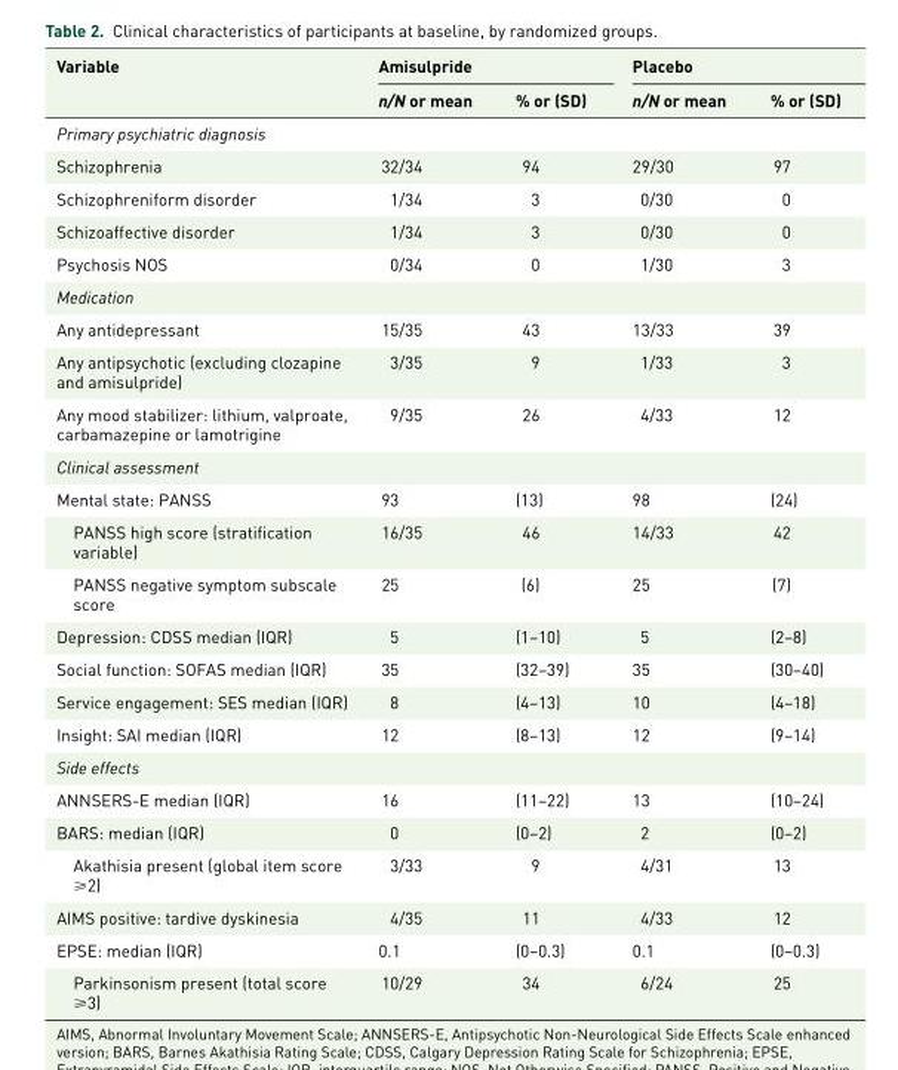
<table><thead><tr><td rowspan="2">Variable</td><td colspan="2">Amisulpride</td><td colspan="2">Placebo</td></tr><tr><td>n/N or mean</td><td>% or (SD)</td><td>n/N or mean</td><td>% or (SD)</td></tr></thead><tbody><tr><td colspan="5">Primary psychiatric diagnosis</td></tr><tr><td>Schizophrenia</td><td>32/34</td><td>94</td><td>29/30</td><td>97</td></tr><tr><td>Schizophreniform disorder</td><td>1/34</td><td>3</td><td>0/30</td><td>0</td></tr><tr><td>Schizoaffective disorder</td><td>1/34</td><td>3</td><td>0/30</td><td>0</td></tr><tr><td>Psychosis NOS</td><td>0/34</td><td>0</td><td>1/30</td><td>3</td></tr><tr><td colspan="5">Medication</td></tr><tr><td>Any antidepressant</td><td>15/35</td><td>43</td><td>13/33</td><td>39</td></tr><tr><td>Any antipsychotic (excluding clozapine and amisulpride)</td><td>3/35</td><td>9</td><td>1/33</td><td>3</td></tr><tr><td>Any mood stabilizer: lithium, valproate, carbamazepine or lamotrigine</td><td>9/35</td><td>26</td><td>4/33</td><td>12</td></tr><tr><td colspan="5">Clinical assessment</td></tr><tr><td>Mental state: PANSS</td><td>93</td><td>(13)</td><td>98</td><td>(24)</td></tr><tr><td>PANSS high score (stratification variable)</td><td>16/35</td><td>46</td><td>14/33</td><td>42</td></tr><tr><td>PANSS negative symptom subscale score</td><td>25</td><td>(6)</td><td>25</td><td>(7)</td></tr><tr><td>Depression: CDSS median (IQR)</td><td>5</td><td>(1–10)</td><td>5</td><td>(2–8)</td></tr><tr><td>Social function: SOFAS median (IQR)</td><td>35</td><td>(32–39)</td><td>35</td><td>(30–40)</td></tr><tr><td>Service engagement: SES median (IQR)</td><td>8</td><td>(4–13)</td><td>10</td><td>(4–18)</td></tr><tr><td>Insight: SAI median (IQR)</td><td>12</td><td>(8–13)</td><td>12</td><td>(9–14)</td></tr><tr><td colspan="5">Side effects</td></tr><tr><td>ANNSERS-E median (IQR)</td><td>16</td><td>(11–22)</td><td>13</td><td>(10–24)</td></tr><tr><td>BARS: median (IQR)</td><td>0</td><td>(0–2)</td><td>2</td><td>(0–2)</td></tr><tr><td>Akathisia present (global item score ⩾2)</td><td>3/33</td><td>9</td><td>4/31</td><td>13</td></tr><tr><td>AIMS positive: tardive dyskinesia</td><td>4/35</td><td>11</td><td>4/33</td><td>12</td></tr><tr><td>EPSE: median (IQR)</td><td>0.1</td><td>(0–0.3)</td><td>0.1</td><td>(0–0.3)</td></tr><tr><td>Parkinsonism present (total score ⩾3)</td><td>10/29</td><td>34</td><td>6/24</td><td>25</td></tr></tbody></table>